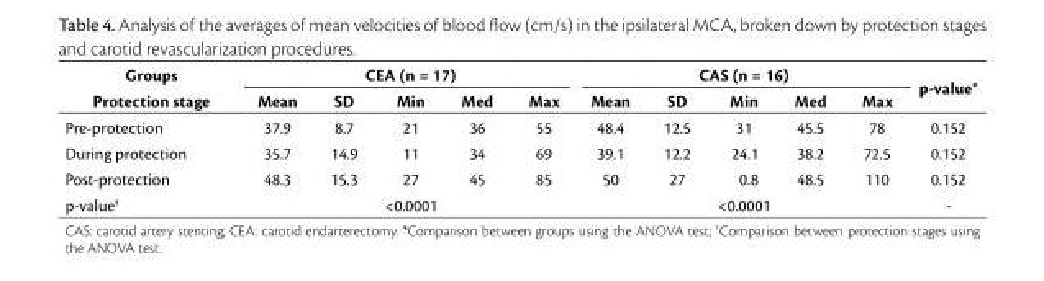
<table><thead><tr><td rowspan="2">Groups Protection stage</td><td colspan="5">CEA (n = 17)</td><td colspan="5">CAS (n = 16)</td><td rowspan="2">p-value*</td></tr><tr><td>Mean</td><td>SD</td><td>Min</td><td>Med</td><td>Max</td><td>Mean</td><td>SD</td><td>Min</td><td>Med</td><td>Max</td></tr></thead><tbody><tr><td>Pre-protection</td><td>37.9</td><td>8.7</td><td>21</td><td>36</td><td>55</td><td>48.4</td><td>12.5</td><td>31</td><td>45.5</td><td>78</td><td>0.152</td></tr><tr><td>During protection</td><td>35.7</td><td>14.9</td><td>11</td><td>34</td><td>69</td><td>39.1</td><td>12.2</td><td>24.1</td><td>38.2</td><td>72.5</td><td>0.152</td></tr><tr><td>Post-protection</td><td>48.3</td><td>15.3</td><td>27</td><td>45</td><td>85</td><td>50</td><td>27</td><td>0.8</td><td>48.5</td><td>110</td><td>0.152</td></tr><tr><td>p-value†</td><td colspan="5">&lt;0.0001</td><td colspan="5">&lt;0.0001</td><td>-</td></tr></tbody></table>